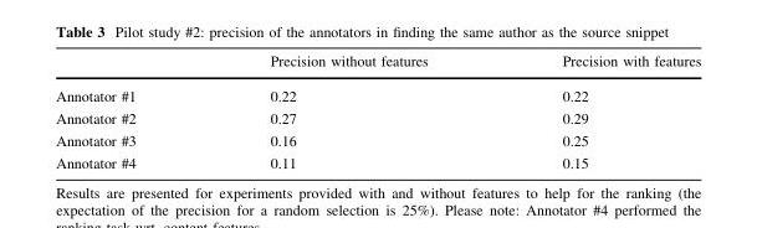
<table><thead><tr><td></td><td>Precision without features</td><td>Precision with features</td></tr></thead><tbody><tr><td>Annotator #1</td><td>0.22</td><td>0.22</td></tr><tr><td>Annotator #2</td><td>0.27</td><td>0.29</td></tr><tr><td>Annotator #3</td><td>0.16</td><td>0.25</td></tr><tr><td>Annotator #4</td><td>0.11</td><td>0.15</td></tr></tbody></table>